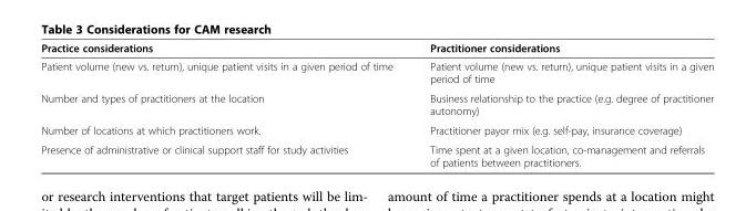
<table><thead><tr><td>Practice considerations</td><td>Practitioner considerations</td></tr></thead><tbody><tr><td>Patient volume (new vs. return), unique patient visits in a given period of time</td><td>Patient volume (new vs. return), unique patient visits in a given period of time</td></tr><tr><td>Number and types of practitioners at the location</td><td>Business relationship to the practice (e.g. degree of practitioner autonomy)</td></tr><tr><td>Number of locations at which practitioners work.</td><td>Practitioner payor mix (e.g. self-pay, insurance coverage)</td></tr><tr><td>Presence of administrative or clinical support staff for study activities</td><td>Time spent at a given location, co-management and referrals of patients between practitioners.</td></tr></tbody></table>